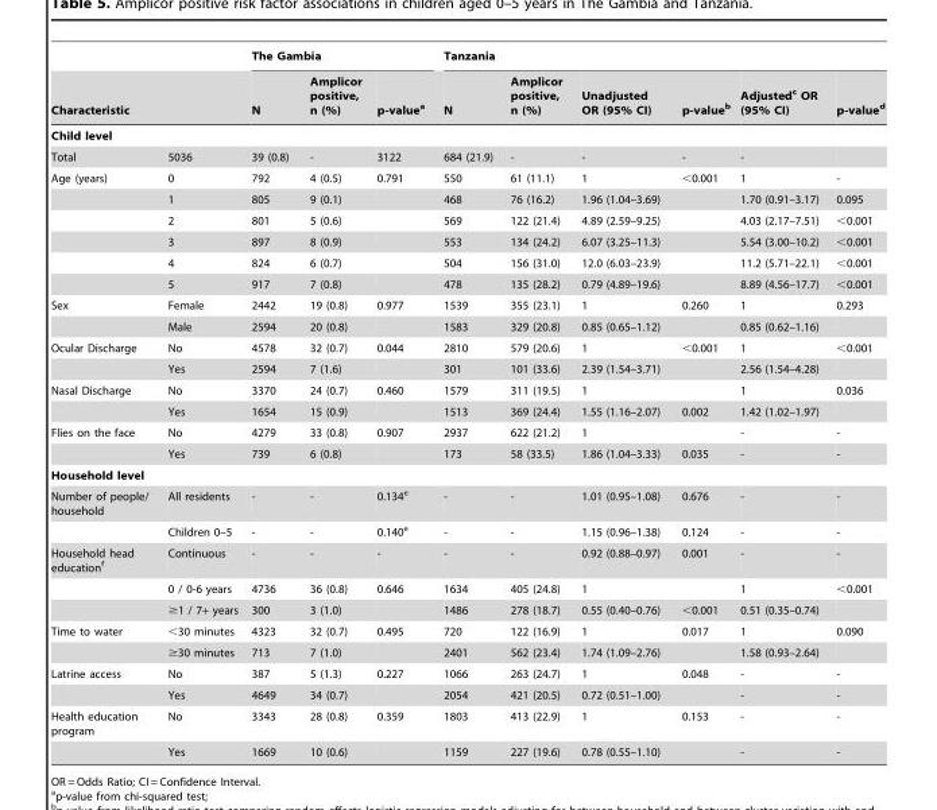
<table><thead><tr><td></td><td></td><td colspan="3">The Gambia</td><td colspan="6">Tanzania</td></tr><tr><td colspan="2">Characteristic</td><td>N</td><td>Amplicor positive, n (%)</td><td>p-value<sup>a</sup></td><td>N</td><td>Amplicor positive, n (%)</td><td>Unadjusted OR (95% CI)</td><td>p-value<sup>b</sup></td><td>Adjusted<sup>c</sup> OR (95% CI)</td><td>p-value<sup>d</sup></td></tr></thead><tbody><tr><td colspan="11">Child level</td></tr><tr><td>Total</td><td>5036</td><td>39 (0.8)</td><td>-</td><td>3122</td><td>684 (21.9)</td><td>-</td><td>-</td><td>-</td><td>-</td><td></td></tr><tr><td rowspan="6">Age (years)</td><td>0</td><td>792</td><td>4 (0.5)</td><td>0.791</td><td>550</td><td>61 (11.1)</td><td>1</td><td>&lt;0.001</td><td>1</td><td>-</td></tr><tr><td>1</td><td>805</td><td>9 (0.1)</td><td></td><td>468</td><td>76 (16.2)</td><td>1.96 (1.04–3.69)</td><td></td><td>1.70 (0.91–3.17)</td><td>0.095</td></tr><tr><td>2</td><td>801</td><td>5 (0.6)</td><td></td><td>569</td><td>122 (21.4)</td><td>4.89 (2.59–9.25)</td><td></td><td>4.03 (2.17–7.51)</td><td>&lt;0.001</td></tr><tr><td>3</td><td>897</td><td>8 (0.9)</td><td></td><td>553</td><td>134 (24.2)</td><td>6.07 (3.25–11.3)</td><td></td><td>5.54 (3.00–10.2)</td><td>&lt;0.001</td></tr><tr><td>4</td><td>824</td><td>6 (0.7)</td><td></td><td>504</td><td>156 (31.0)</td><td>12.0 (6.03–23.9)</td><td></td><td>11.2 (5.71–22.1)</td><td>&lt;0.001</td></tr><tr><td>5</td><td>917</td><td>7 (0.8)</td><td></td><td>478</td><td>135 (28.2)</td><td>0.79 (4.89–19.6)</td><td></td><td>8.89 (4.56–17.7)</td><td>&lt;0.001</td></tr><tr><td rowspan="2">Sex</td><td>Female</td><td>2442</td><td>19 (0.8)</td><td>0.977</td><td>1539</td><td>355 (23.1)</td><td>1</td><td>0.260</td><td>1</td><td>0.293</td></tr><tr><td>Male</td><td>2594</td><td>20 (0.8)</td><td></td><td>1583</td><td>329 (20.8)</td><td>0.85 (0.65–1.12)</td><td></td><td>0.85 (0.62–1.16)</td><td></td></tr><tr><td rowspan="2">Ocular Discharge</td><td>No</td><td>4578</td><td>32 (0.7)</td><td>0.044</td><td>2810</td><td>579 (20.6)</td><td>1</td><td>&lt;0.001</td><td>1</td><td>&lt;0.001</td></tr><tr><td>Yes</td><td>2594</td><td>7 (1.6)</td><td></td><td>301</td><td>101 (33.6)</td><td>2.39 (1.54–3.71)</td><td></td><td>2.56 (1.54–4.28)</td><td></td></tr><tr><td rowspan="2">Nasal Discharge</td><td>No</td><td>3370</td><td>24 (0.7)</td><td>0.460</td><td>1579</td><td>311 (19.5)</td><td>1</td><td></td><td>1</td><td>0.036</td></tr><tr><td>Yes</td><td>1654</td><td>15 (0.9)</td><td></td><td>1513</td><td>369 (24.4)</td><td>1.55 (1.16–2.07)</td><td>0.002</td><td>1.42 (1.02–1.97)</td><td></td></tr><tr><td rowspan="2">Flies on the face</td><td>No</td><td>4279</td><td>33 (0.8)</td><td>0.907</td><td>2937</td><td>622 (21.2)</td><td>1</td><td></td><td>-</td><td>-</td></tr><tr><td>Yes</td><td>739</td><td>6 (0.8)</td><td></td><td>173</td><td>58 (33.5)</td><td>1.86 (1.04–3.33)</td><td>0.035</td><td>-</td><td>-</td></tr><tr><td colspan="11">Household level</td></tr><tr><td rowspan="2">Number of people/ household</td><td>All residents</td><td>-</td><td>-</td><td>0.134<sup>e</sup></td><td>-</td><td>-</td><td>1.01 (0.95–1.08)</td><td>0.676</td><td>-</td><td>-</td></tr><tr><td>Children 0–5</td><td>-</td><td>-</td><td>0.140<sup>e</sup></td><td>-</td><td>-</td><td>1.15 (0.96–1.38)</td><td>0.124</td><td>-</td><td>-</td></tr><tr><td rowspan="3">Household head education<sup>f</sup></td><td>Continuous</td><td>-</td><td>-</td><td>-</td><td>-</td><td>-</td><td>0.92 (0.88–0.97)</td><td>0.001</td><td>-</td><td>-</td></tr><tr><td>0 / 0-6 years</td><td>4736</td><td>36 (0.8)</td><td>0.646</td><td>1634</td><td>405 (24.8)</td><td>1</td><td></td><td>1</td><td>&lt;0.001</td></tr><tr><td>≥1 / 7+ years</td><td>300</td><td>3 (1.0)</td><td></td><td>1486</td><td>278 (18.7)</td><td>0.55 (0.40–0.76)</td><td>&lt;0.001</td><td>0.51 (0.35–0.74)</td><td></td></tr><tr><td rowspan="2">Time to water</td><td>&lt;30 minutes</td><td>4323</td><td>32 (0.7)</td><td>0.495</td><td>720</td><td>122 (16.9)</td><td>1</td><td>0.017</td><td>1</td><td>0.090</td></tr><tr><td>≥30 minutes</td><td>713</td><td>7 (1.0)</td><td></td><td>2401</td><td>562 (23.4)</td><td>1.74 (1.09–2.76)</td><td></td><td>1.58 (0.93–2.64)</td><td></td></tr><tr><td rowspan="2">Latrine access</td><td>No</td><td>387</td><td>5 (1.3)</td><td>0.227</td><td>1066</td><td>263 (24.7)</td><td>1</td><td>0.048</td><td>-</td><td>-</td></tr><tr><td>Yes</td><td>4649</td><td>34 (0.7)</td><td></td><td>2054</td><td>421 (20.5)</td><td>0.72 (0.51–1.00)</td><td></td><td>-</td><td>-</td></tr><tr><td rowspan="2">Health education program</td><td>No</td><td>3343</td><td>28 (0.8)</td><td>0.359</td><td>1803</td><td>413 (22.9)</td><td>1</td><td>0.153</td><td>-</td><td>-</td></tr><tr><td>Yes</td><td>1669</td><td>10 (0.6)</td><td></td><td>1159</td><td>227 (19.6)</td><td>0.78 (0.55–1.10)</td><td></td><td>-</td><td>-</td></tr></tbody></table>